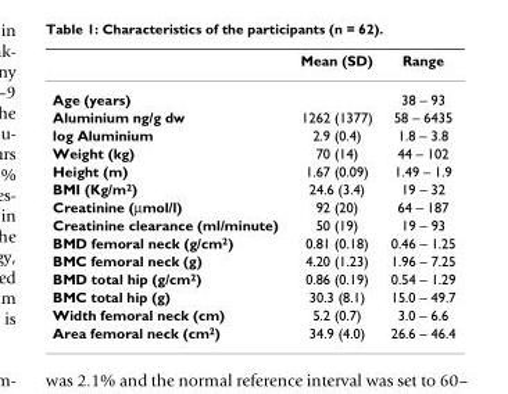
<table><thead><tr><td></td><td>Mean (SD)</td><td>Range</td></tr></thead><tbody><tr><td>Age (years)</td><td></td><td>38 – 93</td></tr><tr><td>Aluminium ng/g dw</td><td>1262 (1377)</td><td>58 – 6435</td></tr><tr><td>log Aluminium</td><td>2.9 (0.4)</td><td>1.8 – 3.8</td></tr><tr><td>Weight (kg)</td><td>70 (14)</td><td>44 – 102</td></tr><tr><td>Height (m)</td><td>1.67 (0.09)</td><td>1.49 – 1.9</td></tr><tr><td>BMI (Kg/m2)</td><td>24.6 (3.4)</td><td>19 – 32</td></tr><tr><td>Creatinine (μmol/l)</td><td>92 (20)</td><td>64 – 187</td></tr><tr><td>Creatinine clearance (ml/minute)</td><td>50 (19)</td><td>19 – 93</td></tr><tr><td>BMD femoral neck (g/cm2)</td><td>0.81 (0.18)</td><td>0.46 – 1.25</td></tr><tr><td>BMC femoral neck (g)</td><td>4.20 (1.23)</td><td>1.96 – 7.25</td></tr><tr><td>BMD total hip (g/cm2)</td><td>0.86 (0.19)</td><td>0.54 – 1.29</td></tr><tr><td>BMC total hip (g)</td><td>30.3 (8.1)</td><td>15.0 – 49.7</td></tr><tr><td>Width femoral neck (cm)</td><td>5.2 (0.7)</td><td>3.0 – 6.6</td></tr><tr><td>Area femoral neck (cm2)</td><td>34.9 (4.0)</td><td>26.6 – 46.4</td></tr></tbody></table>